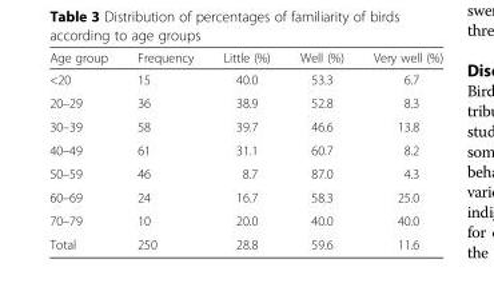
<table><thead><tr><td>Age group</td><td>Frequency</td><td>Little (%)</td><td>Well (%)</td><td>Very well (%)</td></tr></thead><tbody><tr><td>&lt;20</td><td>15</td><td>40.0</td><td>53.3</td><td>6.7</td></tr><tr><td>20–29</td><td>36</td><td>38.9</td><td>52.8</td><td>8.3</td></tr><tr><td>30–39</td><td>58</td><td>39.7</td><td>46.6</td><td>13.8</td></tr><tr><td>40–49</td><td>61</td><td>31.1</td><td>60.7</td><td>8.2</td></tr><tr><td>50–59</td><td>46</td><td>8.7</td><td>87.0</td><td>4.3</td></tr><tr><td>60–69</td><td>24</td><td>16.7</td><td>58.3</td><td>25.0</td></tr><tr><td>70–79</td><td>10</td><td>20.0</td><td>40.0</td><td>40.0</td></tr><tr><td>Total</td><td>250</td><td>28.8</td><td>59.6</td><td>11.6</td></tr></tbody></table>